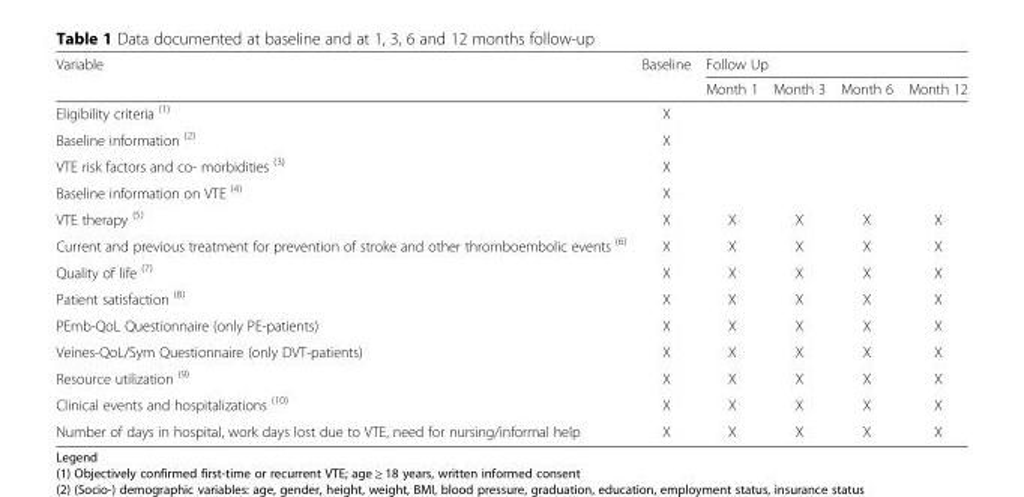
<table><thead><tr><td rowspan="2">Variable</td><td rowspan="2">Baseline</td><td colspan="4">Follow Up</td></tr><tr><td>Month 1</td><td>Month 3</td><td>Month 6</td><td>Month 12</td></tr></thead><tbody><tr><td>Eligibility criteria <sup>(1)</sup></td><td>X</td><td></td><td></td><td></td><td></td></tr><tr><td>Baseline information <sup>(2)</sup></td><td>X</td><td></td><td></td><td></td><td></td></tr><tr><td>VTE risk factors and co- morbidities <sup>(3)</sup></td><td>X</td><td></td><td></td><td></td><td></td></tr><tr><td>Baseline information on VTE <sup>(4)</sup></td><td>X</td><td></td><td></td><td></td><td></td></tr><tr><td>VTE therapy <sup>(5)</sup></td><td>X</td><td>X</td><td>X</td><td>X</td><td>X</td></tr><tr><td>Current and previous treatment for prevention of stroke and other thromboembolic events <sup>(6)</sup></td><td>X</td><td>X</td><td>X</td><td>X</td><td>X</td></tr><tr><td>Quality of life <sup>(7)</sup></td><td>X</td><td>X</td><td>X</td><td>X</td><td>X</td></tr><tr><td>Patient satisfaction <sup>(8)</sup></td><td>X</td><td>X</td><td>X</td><td>X</td><td>X</td></tr><tr><td>PEmb-QoL Questionnaire (only PE-patients)</td><td>X</td><td>X</td><td>X</td><td>X</td><td>X</td></tr><tr><td>Veines-QoL/Sym Questionnaire (only DVT-patients)</td><td>X</td><td>X</td><td>X</td><td>X</td><td>X</td></tr><tr><td>Resource utilization <sup>(9)</sup></td><td>X</td><td>X</td><td>X</td><td>X</td><td>X</td></tr><tr><td>Clinical events and hospitalizations <sup>(10)</sup></td><td>X</td><td>X</td><td>X</td><td>X</td><td>X</td></tr><tr><td>Number of days in hospital, work days lost due to VTE, need for nursing/informal help</td><td>X</td><td>X</td><td>X</td><td>X</td><td>X</td></tr></tbody></table>